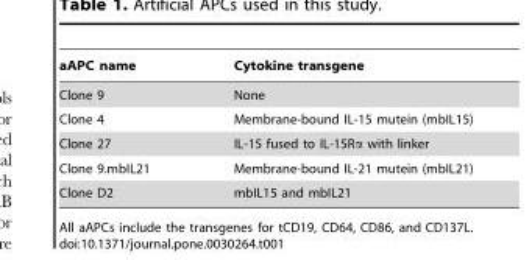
<table><thead><tr><td>aAPC name</td><td>Cytokine transgene</td></tr></thead><tbody><tr><td>Clone 9</td><td>None</td></tr><tr><td>Clone 4</td><td>Membrane-bound IL-15 mutein (mbIL15)</td></tr><tr><td>Clone 27</td><td>IL-15 fused to IL-15Rα with linker</td></tr><tr><td>Clone 9.mbIL21</td><td>Membrane-bound IL-21 mutein (mbIL21)</td></tr><tr><td>Clone D2</td><td>mbIL15 and mbIL21</td></tr></tbody></table>